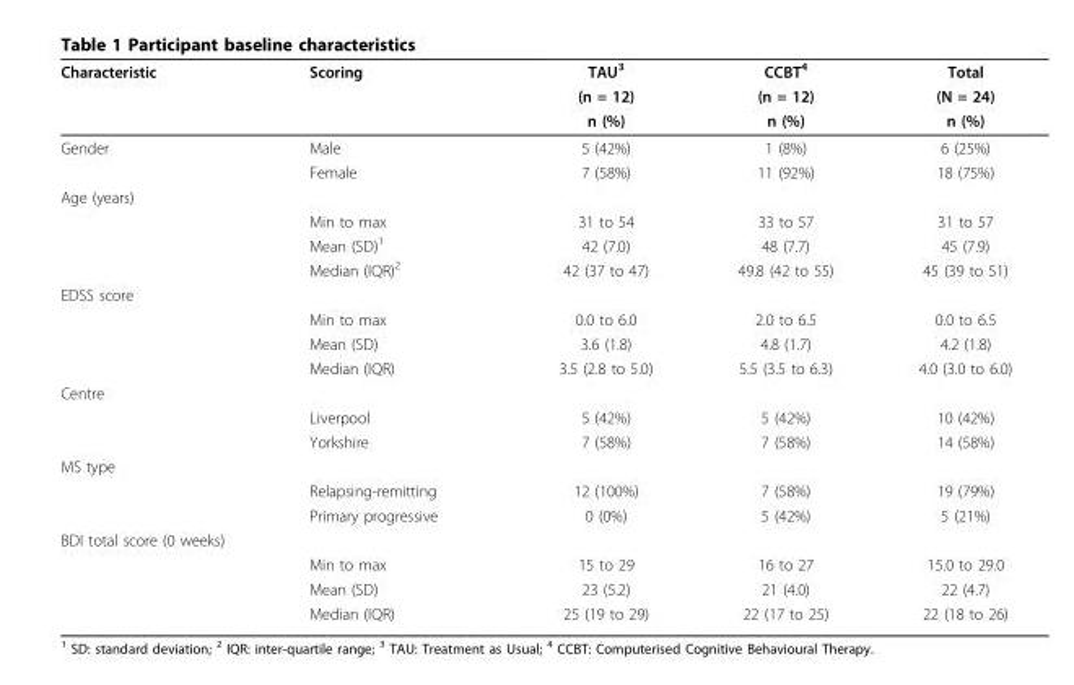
<table><thead><tr><td rowspan="3">Characteristic</td><td rowspan="3">Scoring</td><td rowspan="3">TAU<sup>3</sup> (n = 12) n (%)</td><td rowspan="3">CCBT<sup>4</sup> (n = 12) n (%)</td><td rowspan="3">Total (N = 24) n (%)</td></tr><tr></tr><tr></tr></thead><tbody><tr><td rowspan="2">Gender</td><td>Male</td><td>5 (42%)</td><td>1 (8%)</td><td>6 (25%)</td></tr><tr><td>Female</td><td>7 (58%)</td><td>11 (92%)</td><td>18 (75%)</td></tr><tr><td colspan="5">Age (years)</td></tr><tr><td></td><td>Min to max</td><td>31 to 54</td><td>33 to 57</td><td>31 to 57</td></tr><tr><td></td><td>Mean (SD)<sup>1</sup></td><td>42 (7.0)</td><td>48 (7.7)</td><td>45 (7.9)</td></tr><tr><td></td><td>Median (IQR)<sup>2</sup></td><td>42 (37 to 47)</td><td>49.8 (42 to 55)</td><td>45 (39 to 51)</td></tr><tr><td colspan="5">EDSS score</td></tr><tr><td></td><td>Min to max</td><td>0.0 to 6.0</td><td>2.0 to 6.5</td><td>0.0 to 6.5</td></tr><tr><td></td><td>Mean (SD)</td><td>3.6 (1.8)</td><td>4.8 (1.7)</td><td>4.2 (1.8)</td></tr><tr><td></td><td>Median (IQR)</td><td>3.5 (2.8 to 5.0)</td><td>5.5 (3.5 to 6.3)</td><td>4.0 (3.0 to 6.0)</td></tr><tr><td colspan="5">Centre</td></tr><tr><td></td><td>Liverpool</td><td>5 (42%)</td><td>5 (42%)</td><td>10 (42%)</td></tr><tr><td></td><td>Yorkshire</td><td>7 (58%)</td><td>7 (58%)</td><td>14 (58%)</td></tr><tr><td colspan="5">MS type</td></tr><tr><td></td><td>Relapsing-remitting</td><td>12 (100%)</td><td>7 (58%)</td><td>19 (79%)</td></tr><tr><td></td><td>Primary progressive</td><td>0 (0%)</td><td>5 (42%)</td><td>5 (21%)</td></tr><tr><td colspan="5">BDI total score (0 weeks)</td></tr><tr><td></td><td>Min to max</td><td>15 to 29</td><td>16 to 27</td><td>15.0 to 29.0</td></tr><tr><td></td><td>Mean (SD)</td><td>23 (5.2)</td><td>21 (4.0)</td><td>22 (4.7)</td></tr><tr><td></td><td>Median (IQR)</td><td>25 (19 to 29)</td><td>22 (17 to 25)</td><td>22 (18 to 26)</td></tr></tbody></table>